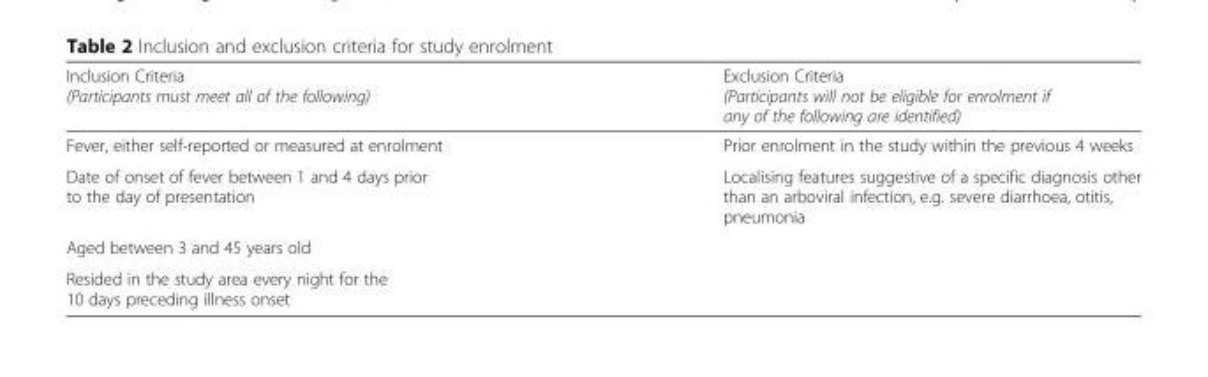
<table><thead><tr><td>Inclusion Criteria (Participants must meet all of the following)</td><td>Exclusion Criteria (Participants will not be eligible for enrolment if any of the following are identified)</td></tr></thead><tbody><tr><td>Fever, either self-reported or measured at enrolment</td><td>Prior enrolment in the study within the previous 4 weeks</td></tr><tr><td>Date of onset of fever between 1 and 4 days prior to the day of presentation</td><td>Localising features suggestive of a specific diagnosis other than an arboviral infection, e.g. severe diarrhoea, otitis, pneumonia</td></tr><tr><td colspan="2">Aged between 3 and 45 years old</td></tr><tr><td>Resided in the study area every night for the 10 days preceding illness onset</td><td></td></tr></tbody></table>